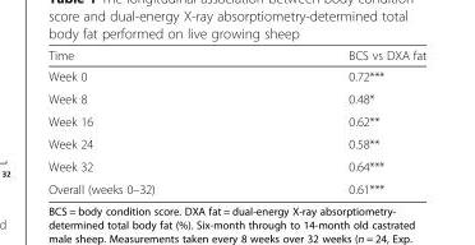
<table><thead><tr><td>Time</td><td>BCS vs DXA fat</td></tr></thead><tbody><tr><td>Week 0</td><td>0.72***</td></tr><tr><td>Week 8</td><td>0.48*</td></tr><tr><td>Week 16</td><td>0.62**</td></tr><tr><td>Week 24</td><td>0.58**</td></tr><tr><td>Week 32</td><td>0.64***</td></tr><tr><td>Overall (weeks 0–32)</td><td>0.61***</td></tr></tbody></table>